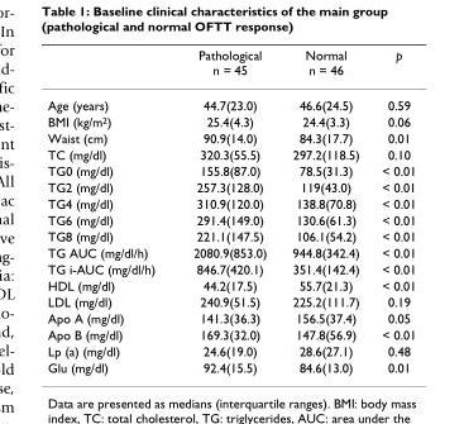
<table><thead><tr><td></td><td>Pathological n = 45</td><td>Normal n = 46</td><td>p</td></tr></thead><tbody><tr><td>Age (years)</td><td>44.7(23.0)</td><td>46.6(24.5)</td><td>0.59</td></tr><tr><td>BMI (kg/m<sup>2</sup>)</td><td>25.4(4.3)</td><td>24.4(3.3)</td><td>0.06</td></tr><tr><td>Waist (cm)</td><td>90.9(14.0)</td><td>84.3(17.7)</td><td>0.01</td></tr><tr><td>TC (mg/dl)</td><td>320.3(55.5)</td><td>297.2(118.5)</td><td>0.10</td></tr><tr><td>TG0 (mg/dl)</td><td>155.8(87.0)</td><td>78.5(31.3)</td><td>&lt; 0.01</td></tr><tr><td>TG2 (mg/dl)</td><td>257.3(128.0)</td><td>119(43.0)</td><td>&lt; 0.01</td></tr><tr><td>TG4 (mg/dl)</td><td>310.9(120.0)</td><td>138.8(70.8)</td><td>&lt; 0.01</td></tr><tr><td>TG6 (mg/dl)</td><td>291.4(149.0)</td><td>130.6(61.3)</td><td>&lt; 0.01</td></tr><tr><td>TG8 (mg/dl)</td><td>221.1(147.5)</td><td>106.1(54.2)</td><td>&lt; 0.01</td></tr><tr><td>TG AUC (mg/dl/h)</td><td>2080.9(853.0)</td><td>944.8(342.4)</td><td>&lt; 0.01</td></tr><tr><td>TG i-AUC (mg/dl/h)</td><td>846.7(420.1)</td><td>351.4(142.4)</td><td>&lt; 0.01</td></tr><tr><td>HDL (mg/dl)</td><td>44.2(17.5)</td><td>55.7(21.3)</td><td>&lt; 0.01</td></tr><tr><td>LDL (mg/dl)</td><td>240.9(51.5)</td><td>225.2(111.7)</td><td>0.19</td></tr><tr><td>Apo A (mg/dl)</td><td>141.3(36.3)</td><td>156.5(37.4)</td><td>0.05</td></tr><tr><td>Apo B (mg/dl)</td><td>169.3(32.0)</td><td>147.8(56.9)</td><td>&lt; 0.01</td></tr><tr><td>Lp (a) (mg/dl)</td><td>24.6(19.0)</td><td>28.6(27.1)</td><td>0.48</td></tr><tr><td>Glu (mg/dl)</td><td>92.4(15.5)</td><td>84.6(13.0)</td><td>0.01</td></tr></tbody></table>